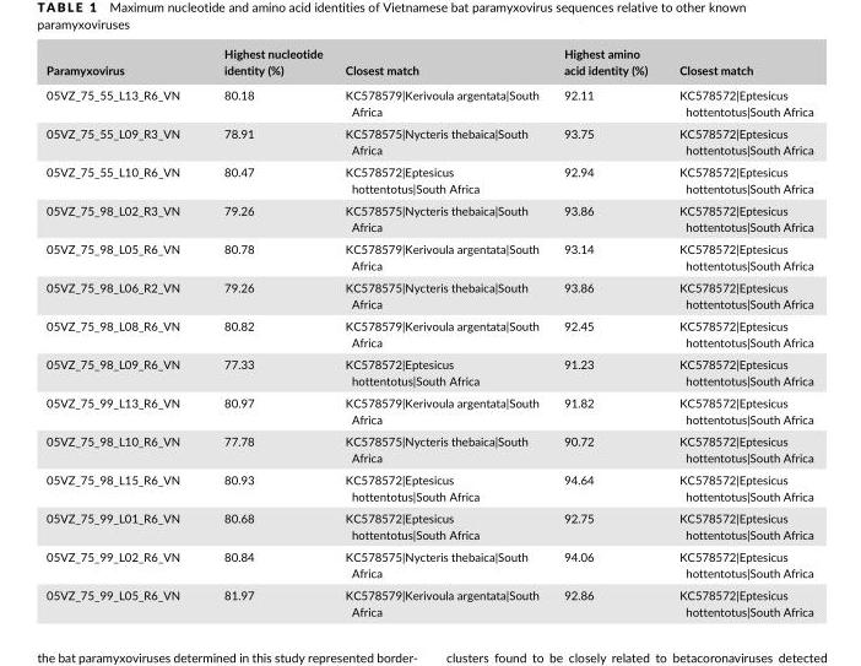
<table><thead><tr><td>Paramyxovirus</td><td>Highest nucleotide identity (%)</td><td>Closest match</td><td>Highest amino acid identity (%)</td><td>Closest match</td></tr></thead><tbody><tr><td>05VZ_75_55_L13_R6_VN</td><td>80.18</td><td>KC578579|Kerivoula argentata|South Africa</td><td>92.11</td><td>KC578572|Eptesicus hottentotus|South Africa</td></tr><tr><td>05VZ_75_55_L09_R3_VN</td><td>78.91</td><td>KC578575|Nycteris thebaica|South Africa</td><td>93.75</td><td>KC578572|Eptesicus hottentotus|South Africa</td></tr><tr><td>05VZ_75_55_L10_R6_VN</td><td>80.47</td><td>KC578572|Eptesicus hottentotus|South Africa</td><td>92.94</td><td>KC578572|Eptesicus hottentotus|South Africa</td></tr><tr><td>05VZ_75_98_L02_R3_VN</td><td>79.26</td><td>KC578575|Nycteris thebaica|South Africa</td><td>93.86</td><td>KC578572|Eptesicus hottentotus|South Africa</td></tr><tr><td>05VZ_75_98_L05_R6_VN</td><td>80.78</td><td>KC578579|Kerivoula argentata|South Africa</td><td>93.14</td><td>KC578572|Eptesicus hottentotus|South Africa</td></tr><tr><td>05VZ_75_98_L06_R2_VN</td><td>79.26</td><td>KC578575|Nycteris thebaica|South Africa</td><td>93.86</td><td>KC578572|Eptesicus hottentotus|South Africa</td></tr><tr><td>05VZ_75_98_L08_R6_VN</td><td>80.82</td><td>KC578579|Kerivoula argentata|South Africa</td><td>92.45</td><td>KC578572|Eptesicus hottentotus|South Africa</td></tr><tr><td>05VZ_75_98_L09_R6_VN</td><td>77.33</td><td>KC578572|Eptesicus hottentotus|South Africa</td><td>91.23</td><td>KC578572|Eptesicus hottentotus|South Africa</td></tr><tr><td>05VZ_75_99_L13_R6_VN</td><td>80.97</td><td>KC578579|Kerivoula argentata|South Africa</td><td>91.82</td><td>KC578572|Eptesicus hottentotus|South Africa</td></tr><tr><td>05VZ_75_98_L10_R6_VN</td><td>77.78</td><td>KC578575|Nycteris thebaica|South Africa</td><td>90.72</td><td>KC578572|Eptesicus hottentotus|South Africa</td></tr><tr><td>05VZ_75_98_L15_R6_VN</td><td>80.93</td><td>KC578572|Eptesicus hottentotus|South Africa</td><td>94.64</td><td>KC578572|Eptesicus hottentotus|South Africa</td></tr><tr><td>05VZ_75_99_L01_R6_VN</td><td>80.68</td><td>KC578572|Eptesicus hottentotus|South Africa</td><td>92.75</td><td>KC578572|Eptesicus hottentotus|South Africa</td></tr><tr><td>05VZ_75_99_L02_R6_VN</td><td>80.84</td><td>KC578575|Nycteris thebaica|South Africa</td><td>94.06</td><td>KC578572|Eptesicus hottentotus|South Africa</td></tr><tr><td>05VZ_75_99_L05_R6_VN</td><td>81.97</td><td>KC578579|Kerivoula argentata|South Africa</td><td>92.86</td><td>KC578572|Eptesicus hottentotus|South Africa</td></tr></tbody></table>